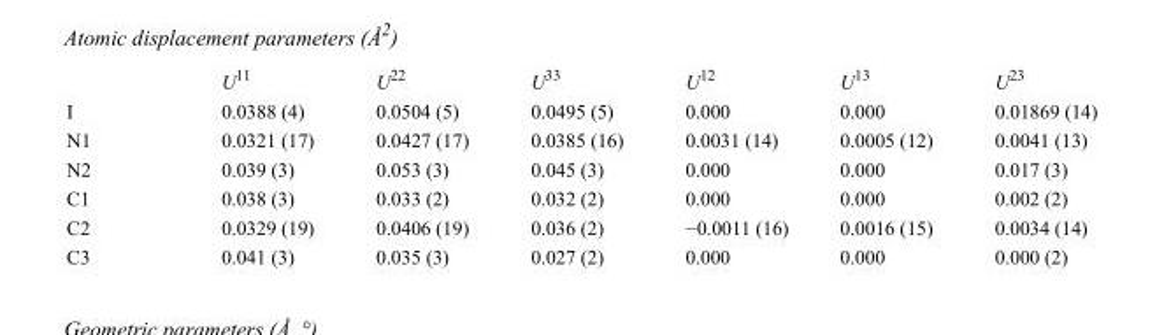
<table><thead><tr><td></td><td>U<sup>11</sup></td><td>U<sup>22</sup></td><td>U<sup>33</sup></td><td>U<sup>12</sup></td><td>U<sup>13</sup></td><td>U<sup>23</sup></td></tr></thead><tbody><tr><td>I</td><td>0.0388 (4)</td><td>0.0504 (5)</td><td>0.0495 (5)</td><td>0.000</td><td>0.000</td><td>0.01869 (14)</td></tr><tr><td>N1</td><td>0.0321 (17)</td><td>0.0427 (17)</td><td>0.0385 (16)</td><td>0.0031 (14)</td><td>0.0005 (12)</td><td>0.0041 (13)</td></tr><tr><td>N2</td><td>0.039 (3)</td><td>0.053 (3)</td><td>0.045 (3)</td><td>0.000</td><td>0.000</td><td>0.017 (3)</td></tr><tr><td>C1</td><td>0.038 (3)</td><td>0.033 (2)</td><td>0.032 (2)</td><td>0.000</td><td>0.000</td><td>0.002 (2)</td></tr><tr><td>C2</td><td>0.0329 (19)</td><td>0.0406 (19)</td><td>0.036 (2)</td><td>−0.0011 (16)</td><td>0.0016 (15)</td><td>0.0034 (14)</td></tr><tr><td>C3</td><td>0.041 (3)</td><td>0.035 (3)</td><td>0.027 (2)</td><td>0.000</td><td>0.000</td><td>0.000 (2)</td></tr></tbody></table>